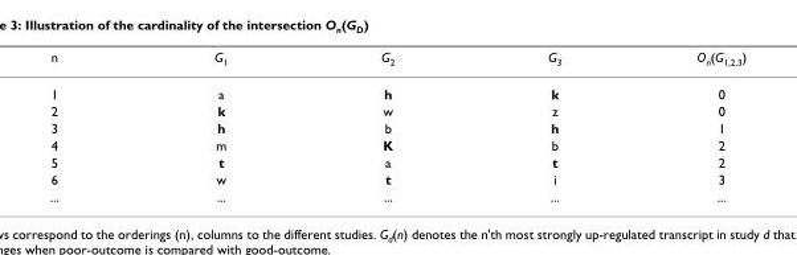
<table><thead><tr><td>n</td><td>G<sub>1</sub></td><td>G<sub>2</sub></td><td>G<sub>3</sub></td><td>O<sub>n</sub>(G<sub>1,2,3</sub>)</td></tr></thead><tbody><tr><td>1</td><td>a</td><td>h</td><td>k</td><td>0</td></tr><tr><td>2</td><td>k</td><td>w</td><td>z</td><td>0</td></tr><tr><td>3</td><td>h</td><td>b</td><td>h</td><td>1</td></tr><tr><td>4</td><td>m</td><td>K</td><td>b</td><td>2</td></tr><tr><td>5</td><td>t</td><td>a</td><td>t</td><td>2</td></tr><tr><td>6</td><td>w</td><td>t</td><td>i</td><td>3</td></tr><tr><td>...</td><td>...</td><td>...</td><td>...</td><td>...</td></tr></tbody></table>